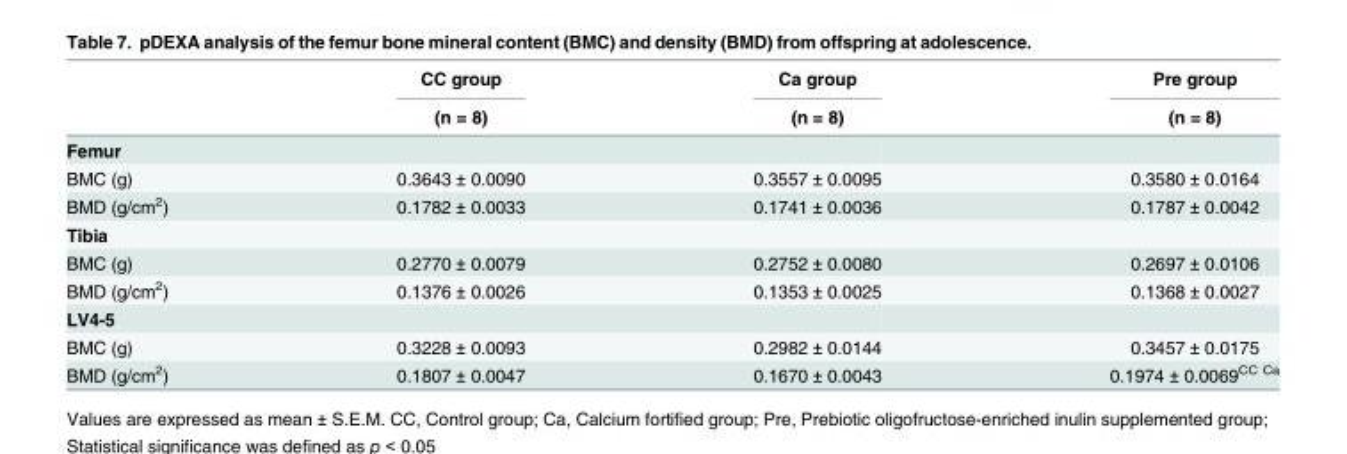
<table><thead><tr><td rowspan="2"></td><td rowspan="2">CC group (n = 8)</td><td rowspan="2">Ca group (n = 8)</td><td rowspan="2">Pre group (n = 8)</td></tr><tr></tr></thead><tbody><tr><td colspan="4">Femur</td></tr><tr><td>BMC (g)</td><td>0.3643 ± 0.0090</td><td>0.3557 ± 0.0095</td><td>0.3580 ± 0.0164</td></tr><tr><td>BMD (g/cm<sup>2</sup>)</td><td>0.1782 ± 0.0033</td><td>0.1741 ± 0.0036</td><td>0.1787 ± 0.0042</td></tr><tr><td colspan="4">Tibia</td></tr><tr><td>BMC (g)</td><td>0.2770 ± 0.0079</td><td>0.2752 ± 0.0080</td><td>0.2697 ± 0.0106</td></tr><tr><td>BMD (g/cm<sup>2</sup>)</td><td>0.1376 ± 0.0026</td><td>0.1353 ± 0.0025</td><td>0.1368 ± 0.0027</td></tr><tr><td colspan="4">LV4-5</td></tr><tr><td>BMC (g)</td><td>0.3228 ± 0.0093</td><td>0.2982 ± 0.0144</td><td>0.3457 ± 0.0175</td></tr><tr><td>BMD (g/cm<sup>2</sup>)</td><td>0.1807 ± 0.0047</td><td>0.1670 ± 0.0043</td><td>0.1974 ± 0.0069<sup>CC Ca</sup></td></tr></tbody></table>